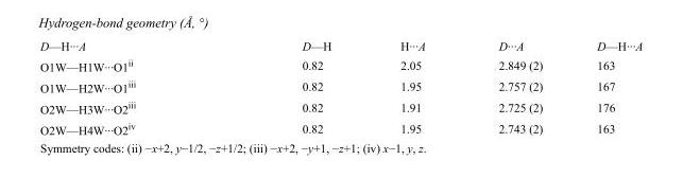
<table><tbody><tr><td>D—H···A</td><td>D—H</td><td>H···A</td><td>D···A</td><td>D—H···A</td></tr><tr><td>O1W—H1W···O1<sup>ii</sup></td><td>0.82</td><td>2.05</td><td>2.849 (2)</td><td>163</td></tr><tr><td>O1W—H2W···O1<sup>iii</sup></td><td>0.82</td><td>1.95</td><td>2.757 (2)</td><td>167</td></tr><tr><td>O2W—H3W···O2<sup>iii</sup></td><td>0.82</td><td>1.91</td><td>2.725 (2)</td><td>176</td></tr><tr><td>O2W—H4W···O2<sup>iv</sup></td><td>0.82</td><td>1.95</td><td>2.743 (2)</td><td>163</td></tr></tbody></table>